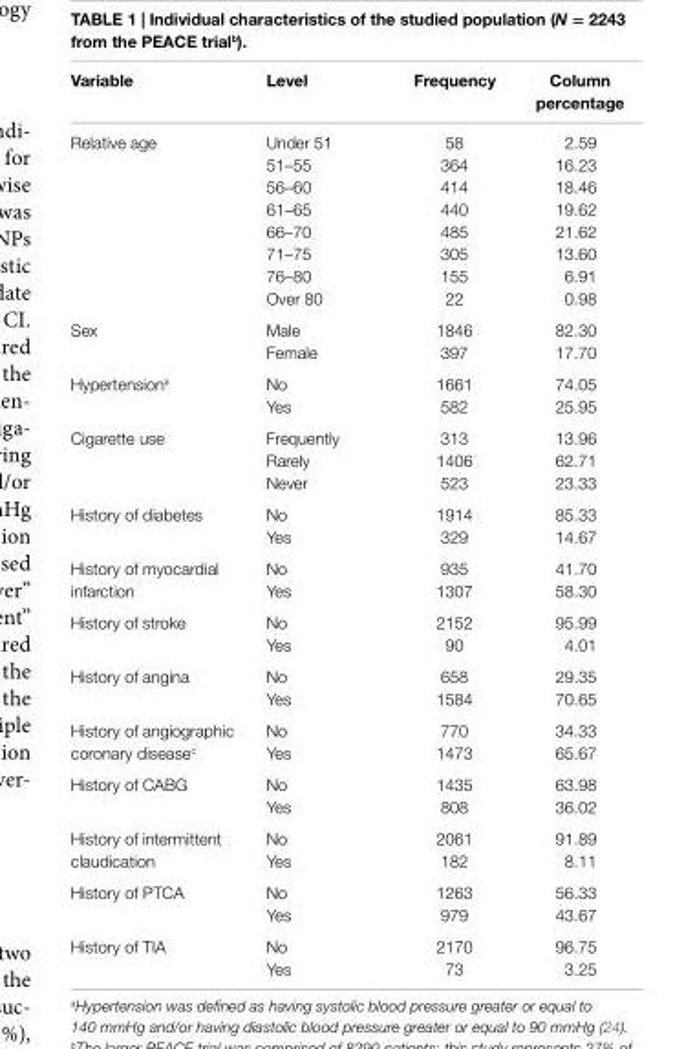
<table><thead><tr><td>Variable</td><td>level</td><td>Frequency</td><td>column percentage</td></tr></thead><tbody><tr><td rowspan="8">Relative age</td><td>Under 51</td><td>58</td><td>2.59</td></tr><tr><td>51–55</td><td>364</td><td>16.23</td></tr><tr><td>56–60</td><td>414</td><td>18.46</td></tr><tr><td>61–65</td><td>440</td><td>19.62</td></tr><tr><td>66–70</td><td>485</td><td>21.62</td></tr><tr><td>71–75</td><td>305</td><td>13.60</td></tr><tr><td>76–80</td><td>155</td><td>6.91</td></tr><tr><td>Over 80</td><td>22</td><td>0.98</td></tr><tr><td rowspan="2">Sex</td><td>Male</td><td>1846</td><td>82.30</td></tr><tr><td>Female</td><td>397</td><td>17.70</td></tr><tr><td rowspan="2">Hypertension<sup>a</sup></td><td>No</td><td>1661</td><td>74.05</td></tr><tr><td>Yes</td><td>582</td><td>25.95</td></tr><tr><td rowspan="3">Cigarette use</td><td>Frequently</td><td>313</td><td>13.96</td></tr><tr><td>Rarely</td><td>1406</td><td>62.71</td></tr><tr><td>Never</td><td>523</td><td>23.33</td></tr><tr><td rowspan="2">History of diabetes</td><td>No</td><td>1914</td><td>85.33</td></tr><tr><td>Yes</td><td>329</td><td>14.67</td></tr><tr><td rowspan="2">History of myocardial infarction</td><td>No</td><td>935</td><td>41.70</td></tr><tr><td>Yes</td><td>1307</td><td>58.30</td></tr><tr><td rowspan="2">History of stroke</td><td>No</td><td>2152</td><td>95.99</td></tr><tr><td>Yes</td><td>90</td><td>4.01</td></tr><tr><td rowspan="2">History of angina</td><td>No</td><td>658</td><td>29.35</td></tr><tr><td>Yes</td><td>1584</td><td>70.65</td></tr><tr><td rowspan="2">History of angiographic coronary disease<sup>c</sup></td><td>No</td><td>770</td><td>34.33</td></tr><tr><td>Yes</td><td>1473</td><td>65.67</td></tr><tr><td rowspan="2">History of CABG</td><td>No</td><td>1435</td><td>63.98</td></tr><tr><td>Yes</td><td>808</td><td>36.02</td></tr><tr><td rowspan="2">History of intermittent claudication</td><td>No</td><td>2061</td><td>91.89</td></tr><tr><td>Yes</td><td>182</td><td>8.11</td></tr><tr><td rowspan="2">History of PTCA</td><td>No</td><td>1263</td><td>56.33</td></tr><tr><td>Yes</td><td>979</td><td>43.67</td></tr><tr><td rowspan="2">History of TIA</td><td>No</td><td>2170</td><td>96.75</td></tr><tr><td>Yes</td><td>73</td><td>3.25</td></tr></tbody></table>